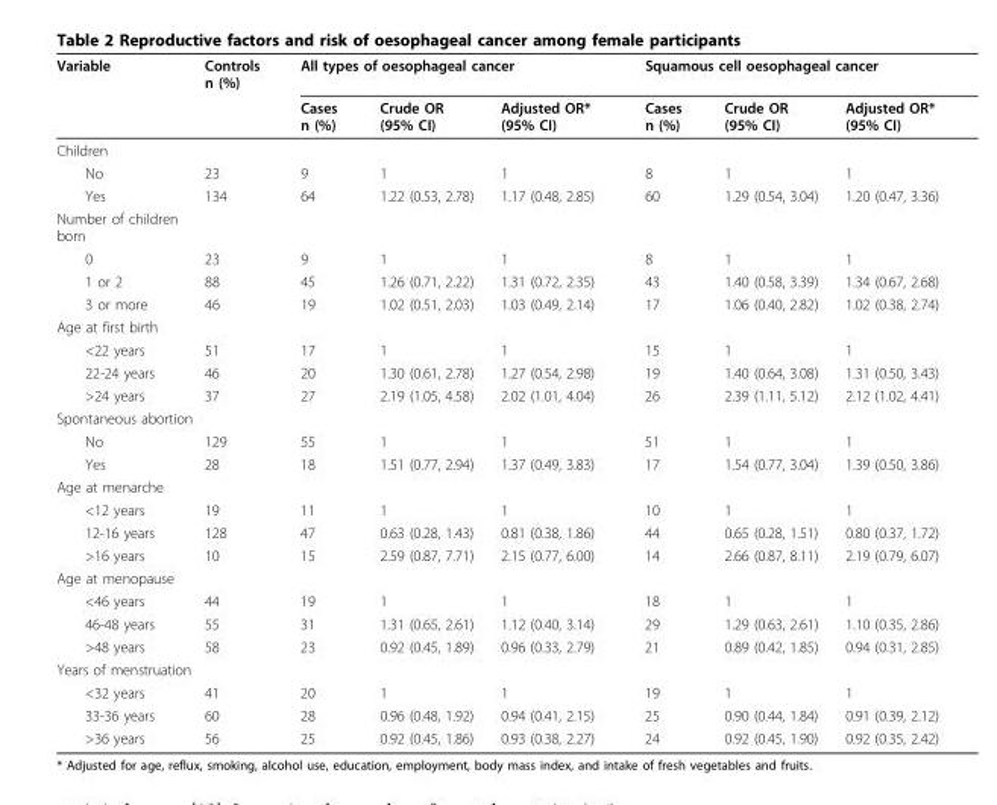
<table><thead><tr><td rowspan="2">Variable</td><td rowspan="2">Controls n (%)</td><td colspan="3">All types of oesophageal cancer</td><td colspan="3">Squamous cell oesophageal cancer</td></tr><tr><td>Cases n (%)</td><td>Crude OR (95% CI)</td><td>Adjusted OR* (95% CI)</td><td>Cases n (%)</td><td>Crude OR (95% CI)</td><td>Adjusted OR* (95% CI)</td></tr></thead><tbody><tr><td colspan="8">Children</td></tr><tr><td>No</td><td>23</td><td>9</td><td>1</td><td>1</td><td>8</td><td>1</td><td>1</td></tr><tr><td>Yes</td><td>134</td><td>64</td><td>1.22 (0.53, 2.78)</td><td>1.17 (0.48, 2.85)</td><td>60</td><td>1.29 (0.54, 3.04)</td><td>1.20 (0.47, 3.36)</td></tr><tr><td colspan="8">Number of children born</td></tr><tr><td>0</td><td>23</td><td>9</td><td>1</td><td>1</td><td>8</td><td>1</td><td>1</td></tr><tr><td>1 or 2</td><td>88</td><td>45</td><td>1.26 (0.71, 2.22)</td><td>1.31 (0.72, 2.35)</td><td>43</td><td>1.40 (0.58, 3.39)</td><td>1.34 (0.67, 2.68)</td></tr><tr><td>3 or more</td><td>46</td><td>19</td><td>1.02 (0.51, 2.03)</td><td>1.03 (0.49, 2.14)</td><td>17</td><td>1.06 (0.40, 2.82)</td><td>1.02 (0.38, 2.74)</td></tr><tr><td colspan="8">Age at first birth</td></tr><tr><td>&lt;22 years</td><td>51</td><td>17</td><td>1</td><td>1</td><td>15</td><td>1</td><td>1</td></tr><tr><td>22-24 years</td><td>46</td><td>20</td><td>1.30 (0.61, 2.78)</td><td>1.27 (0.54, 2.98)</td><td>19</td><td>1.40 (0.64, 3.08)</td><td>1.31 (0.50, 3.43)</td></tr><tr><td>&gt;24 years</td><td>37</td><td>27</td><td>2.19 (1.05, 4.58)</td><td>2.02 (1.01, 4.04)</td><td>26</td><td>2.39 (1.11, 5.12)</td><td>2.12 (1.02, 4.41)</td></tr><tr><td colspan="8">Spontaneous abortion</td></tr><tr><td>No</td><td>129</td><td>55</td><td>1</td><td>1</td><td>51</td><td>1</td><td>1</td></tr><tr><td>Yes</td><td>28</td><td>18</td><td>1.51 (0.77, 2.94)</td><td>1.37 (0.49, 3.83)</td><td>17</td><td>1.54 (0.77, 3.04)</td><td>1.39 (0.50, 3.86)</td></tr><tr><td colspan="8">Age at menarche</td></tr><tr><td>&lt;12 years</td><td>19</td><td>11</td><td>1</td><td>1</td><td>10</td><td>1</td><td>1</td></tr><tr><td>12-16 years</td><td>128</td><td>47</td><td>0.63 (0.28, 1.43)</td><td>0.81 (0.38, 1.86)</td><td>44</td><td>0.65 (0.28, 1.51)</td><td>0.80 (0.37, 1.72)</td></tr><tr><td>&gt;16 years</td><td>10</td><td>15</td><td>2.59 (0.87, 7.71)</td><td>2.15 (0.77, 6.00)</td><td>14</td><td>2.66 (0.87, 8.11)</td><td>2.19 (0.79, 6.07)</td></tr><tr><td colspan="8">Age at menopause</td></tr><tr><td>&lt;46 years</td><td>44</td><td>19</td><td>1</td><td>1</td><td>18</td><td>1</td><td>1</td></tr><tr><td>46-48 years</td><td>55</td><td>31</td><td>1.31 (0.65, 2.61)</td><td>1.12 (0.40, 3.14)</td><td>29</td><td>1.29 (0.63, 2.61)</td><td>1.10 (0.35, 2.86)</td></tr><tr><td>&gt;48 years</td><td>58</td><td>23</td><td>0.92 (0.45, 1.89)</td><td>0.96 (0.33, 2.79)</td><td>21</td><td>0.89 (0.42, 1.85)</td><td>0.94 (0.31, 2.85)</td></tr><tr><td colspan="8">Years of menstruation</td></tr><tr><td>&lt;32 years</td><td>41</td><td>20</td><td>1</td><td>1</td><td>19</td><td>1</td><td>1</td></tr><tr><td>33-36 years</td><td>60</td><td>28</td><td>0.96 (0.48, 1.92)</td><td>0.94 (0.41, 2.15)</td><td>25</td><td>0.90 (0.44, 1.84)</td><td>0.91 (0.39, 2.12)</td></tr><tr><td>&gt;36 years</td><td>56</td><td>25</td><td>0.92 (0.45, 1.86)</td><td>0.93 (0.38, 2.27)</td><td>24</td><td>0.92 (0.45, 1.90)</td><td>0.92 (0.35, 2.42)</td></tr></tbody></table>